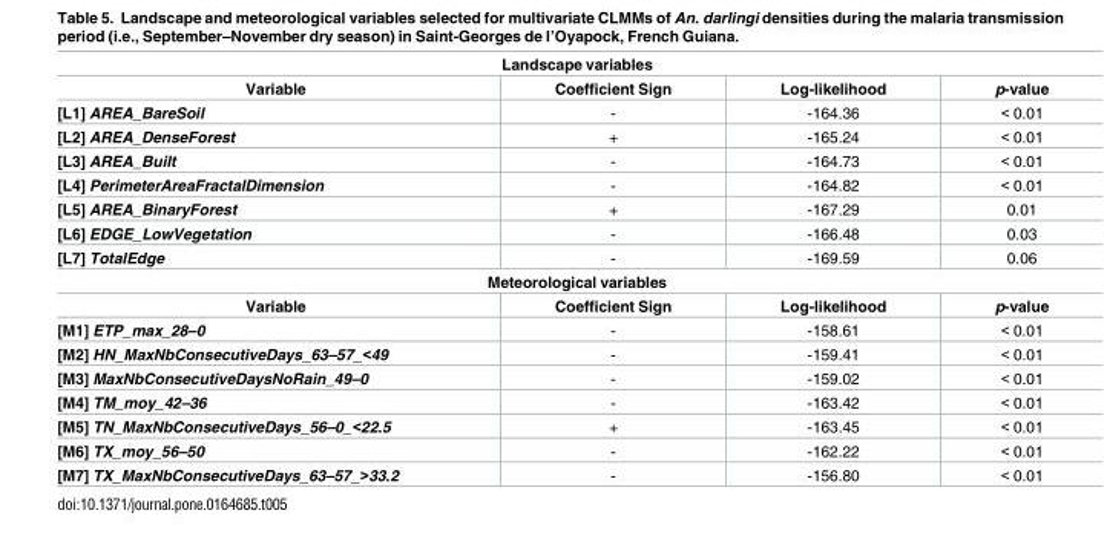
<table><tbody><tr><td colspan="4">Landscape variables</td></tr><tr><td>Variable</td><td>Coefficient Sign</td><td>Log-likelihood</td><td>p-value</td></tr><tr><td>[L1] AREA_BareSoil</td><td>-</td><td>-164.36</td><td>&lt; 0.01</td></tr><tr><td>[L2] AREA_DenseForest</td><td>+</td><td>-165.24</td><td>&lt; 0.01</td></tr><tr><td>[L3] AREA_Built</td><td>-</td><td>-164.73</td><td>&lt; 0.01</td></tr><tr><td>[L4] PerimeterAreaFractalDimension</td><td>-</td><td>-164.82</td><td>&lt; 0.01</td></tr><tr><td>[L5] AREA_BinaryForest</td><td>+</td><td>-167.29</td><td>0.01</td></tr><tr><td>[L6] EDGE_LowVegetation</td><td>-</td><td>-166.48</td><td>0.03</td></tr><tr><td>[L7] TotalEdge</td><td>-</td><td>-169.59</td><td>0.06</td></tr><tr><td colspan="4">Meteorological variables</td></tr><tr><td>Variable</td><td>Coefficient Sign</td><td>Log-likelihood</td><td>p-value</td></tr><tr><td>[M1] ETP_max_28–0</td><td>-</td><td>-158.61</td><td>&lt; 0.01</td></tr><tr><td>[M2] HN_MaxNbConsecutiveDays_63–57_&lt;49</td><td>-</td><td>-159.41</td><td>&lt; 0.01</td></tr><tr><td>[M3] MaxNbConsecutiveDaysNoRain_49–0</td><td>-</td><td>-159.02</td><td>&lt; 0.01</td></tr><tr><td>[M4] TM_moy_42–36</td><td>-</td><td>-163.42</td><td>&lt; 0.01</td></tr><tr><td>[M5] TN_MaxNbConsecutiveDays_56–0_&lt;22.5</td><td>+</td><td>-163.45</td><td>&lt; 0.01</td></tr><tr><td>[M6] TX_moy_56–50</td><td>-</td><td>-162.22</td><td>&lt; 0.01</td></tr><tr><td>[M7] TX_MaxNbConsecutiveDays_63–57_&gt;33.2</td><td>-</td><td>-156.80</td><td>&lt; 0.01</td></tr></tbody></table>